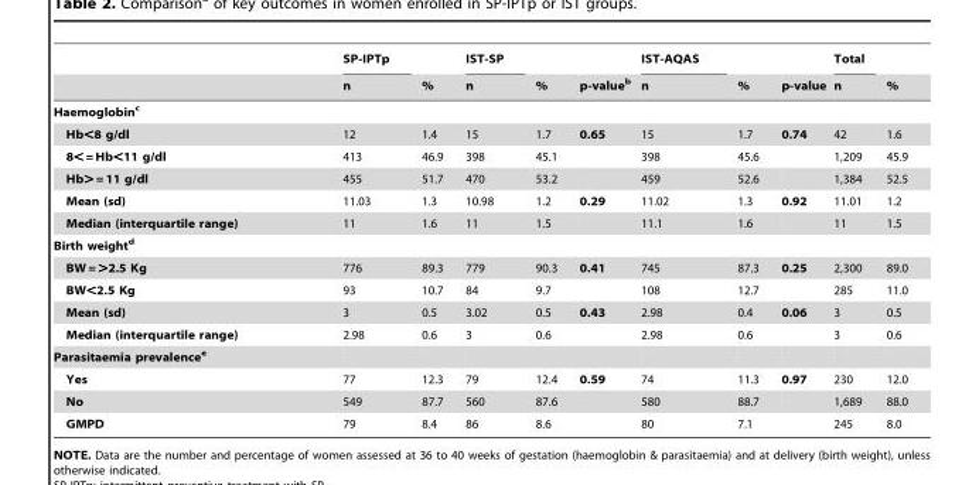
<table><thead><tr><td rowspan="2"></td><td rowspan="2">SP-IPTp n</td><td rowspan="2">%</td><td rowspan="2">IST-SP n</td><td rowspan="2">%</td><td rowspan="2">p-value<sup>b</sup></td><td rowspan="2">IST-AQAS n</td><td rowspan="2">%</td><td rowspan="2">p-value</td><td rowspan="2">Total n</td><td rowspan="2">%</td></tr><tr></tr></thead><tbody><tr><td colspan="11">Haemoglobinc</td></tr><tr><td>Hb&lt;8 g/dl</td><td>12</td><td>1.4</td><td>15</td><td>1.7</td><td>0.65</td><td>15</td><td>1.7</td><td>0.74</td><td>42</td><td>1.6</td></tr><tr><td>8&lt; = Hb&lt;11 g/dl</td><td>413</td><td>46.9</td><td>398</td><td>45.1</td><td></td><td>398</td><td>45.6</td><td></td><td>1,209</td><td>45.9</td></tr><tr><td>Hb&gt; = 11 g/dl</td><td>455</td><td>51.7</td><td>470</td><td>53.2</td><td></td><td>459</td><td>52.6</td><td></td><td>1,384</td><td>52.5</td></tr><tr><td>Mean (sd)</td><td>11.03</td><td>1.3</td><td>10.98</td><td>1.2</td><td>0.29</td><td>11.02</td><td>1.3</td><td>0.92</td><td>11.01</td><td>1.2</td></tr><tr><td>Median (interquartile range)</td><td>11</td><td>1.6</td><td>11</td><td>1.5</td><td></td><td>11.1</td><td>1.6</td><td></td><td>11</td><td>1.5</td></tr><tr><td colspan="11">Birth weightd</td></tr><tr><td>BW = &gt;2.5 Kg</td><td>776</td><td>89.3</td><td>779</td><td>90.3</td><td>0.41</td><td>745</td><td>87.3</td><td>0.25</td><td>2,300</td><td>89.0</td></tr><tr><td>BW&lt;2.5 Kg</td><td>93</td><td>10.7</td><td>84</td><td>9.7</td><td></td><td>108</td><td>12.7</td><td></td><td>285</td><td>11.0</td></tr><tr><td>Mean (sd)</td><td>3</td><td>0.5</td><td>3.02</td><td>0.5</td><td>0.43</td><td>2.98</td><td>0.4</td><td>0.06</td><td>3</td><td>0.5</td></tr><tr><td>Median (interquartile range)</td><td>2.98</td><td>0.6</td><td>3</td><td>0.6</td><td></td><td>2.98</td><td>0.6</td><td></td><td>3</td><td>0.6</td></tr><tr><td colspan="11">Parasitaemia prevalencee</td></tr><tr><td>Yes</td><td>77</td><td>12.3</td><td>79</td><td>12.4</td><td>0.59</td><td>74</td><td>11.3</td><td>0.97</td><td>230</td><td>12.0</td></tr><tr><td>No</td><td>549</td><td>87.7</td><td>560</td><td>87.6</td><td></td><td>580</td><td>88.7</td><td></td><td>1,689</td><td>88.0</td></tr><tr><td>GMPD</td><td>79</td><td>8.4</td><td>86</td><td>8.6</td><td></td><td>80</td><td>7.1</td><td></td><td>245</td><td>8.0</td></tr></tbody></table>